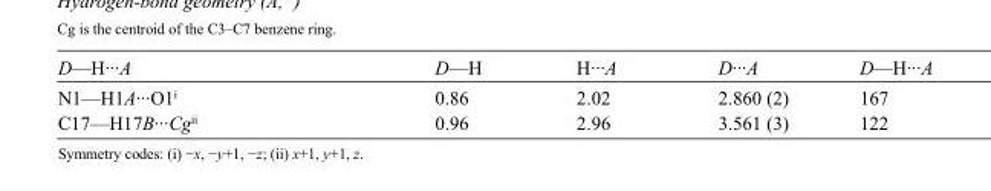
<table><tbody><tr><td>D—H···A</td><td>D—H</td><td>H···A</td><td>D···A</td><td>D—H···A</td></tr><tr><td>N1—H1A···O1<sup>i</sup></td><td>0.86</td><td>2.02</td><td>2.860 (2)</td><td>167</td></tr><tr><td>C17—H17B···Cg<sup>ii</sup></td><td>0.96</td><td>2.96</td><td>3.561 (3)</td><td>122</td></tr></tbody></table>